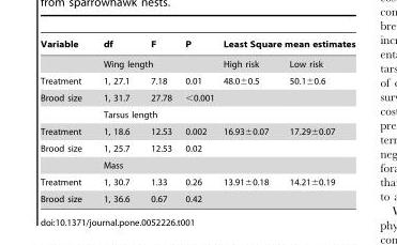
<table><thead><tr><td rowspan="2">Variable</td><td>df</td><td>F</td><td>P</td><td colspan="2">Least Square mean estimates</td></tr><tr><td colspan="3">Wing length</td><td>High risk</td><td>Low risk</td></tr></thead><tbody><tr><td>Treatment</td><td>1, 27.1</td><td>7.18</td><td>0.01</td><td>48.0±0.5</td><td>50.1±0.6</td></tr><tr><td rowspan="2">Brood size</td><td>1, 31.7</td><td>27.78</td><td>&lt;0.001</td><td></td><td></td></tr><tr><td colspan="3">Tarsus length</td><td></td><td></td></tr><tr><td>Treatment</td><td>1, 18.6</td><td>12.53</td><td>0.002</td><td>16.93±0.07</td><td>17.29±0.07</td></tr><tr><td rowspan="2">Brood size</td><td>1, 25.7</td><td>12.53</td><td>0.02</td><td></td><td></td></tr><tr><td colspan="3">Mass</td><td></td><td></td></tr><tr><td>Treatment</td><td>1, 30.7</td><td>1.33</td><td>0.26</td><td>13.91±0.18</td><td>14.21±0.19</td></tr><tr><td>Brood size</td><td>1, 36.6</td><td>0.67</td><td>0.42</td><td></td><td></td></tr></tbody></table>